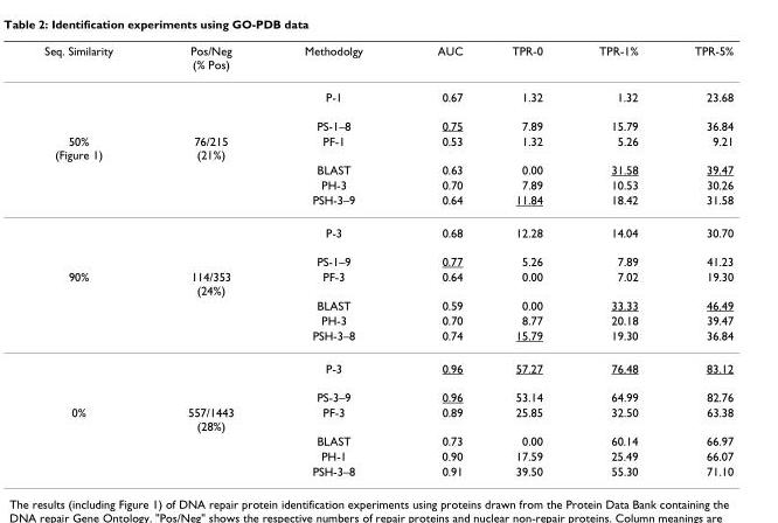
<table><thead><tr><td>Seq. Similarity</td><td>Pos/Neg (% Pos)</td><td>Methodolgy</td><td>AUC</td><td>TPR-0</td><td>TPR-1%</td><td>TPR-5%</td></tr></thead><tbody><tr><td></td><td></td><td>P-1</td><td>0.67</td><td>1.32</td><td>1.32</td><td>23.68</td></tr><tr><td></td><td></td><td>PS-1–8</td><td>0.75</td><td>7.89</td><td>15.79</td><td>36.84</td></tr><tr><td rowspan="6">50% (Figure 1)</td><td>76/215 (21%)</td><td>PF-1</td><td>0.53</td><td>1.32</td><td>5.26</td><td>9.21</td></tr><tr><td></td><td>BLAST</td><td>0.63</td><td>0.00</td><td>31.58</td><td>39.47</td></tr><tr><td></td><td>PH-3</td><td>0.70</td><td>7.89</td><td>10.53</td><td>30.26</td></tr><tr><td></td><td>PSH-3–9</td><td>0.64</td><td>11.84</td><td>18.42</td><td>31.58</td></tr><tr><td></td><td>P-3</td><td>0.68</td><td>12.28</td><td>14.04</td><td>30.70</td></tr><tr><td></td><td>PS-1–9</td><td>0.77</td><td>5.26</td><td>7.89</td><td>41.23</td></tr><tr><td rowspan="6">90%</td><td>114/353 (24%)</td><td>PF-3</td><td>0.64</td><td>0.00</td><td>7.02</td><td>19.30</td></tr><tr><td></td><td>BLAST</td><td>0.59</td><td>0.00</td><td>33.33</td><td>46.49</td></tr><tr><td></td><td>PH-3</td><td>0.70</td><td>8.77</td><td>20.18</td><td>39.47</td></tr><tr><td></td><td>PSH-3–8</td><td>0.74</td><td>15.79</td><td>19.30</td><td>36.84</td></tr><tr><td></td><td>P-3</td><td>0.96</td><td>57.27</td><td>76.48</td><td>83.12</td></tr><tr><td></td><td>PS-3–9</td><td>0.96</td><td>53.14</td><td>64.99</td><td>82.76</td></tr><tr><td rowspan="4">0%</td><td>557/1443 (28%)</td><td>PF-3</td><td>0.89</td><td>25.85</td><td>32.50</td><td>63.38</td></tr><tr><td></td><td>BLAST</td><td>0.73</td><td>0.00</td><td>60.14</td><td>66.97</td></tr><tr><td></td><td>PH-1</td><td>0.90</td><td>17.59</td><td>25.49</td><td>66.07</td></tr><tr><td></td><td>PSH-3–8</td><td>0.91</td><td>39.50</td><td>55.30</td><td>71.10</td></tr></tbody></table>